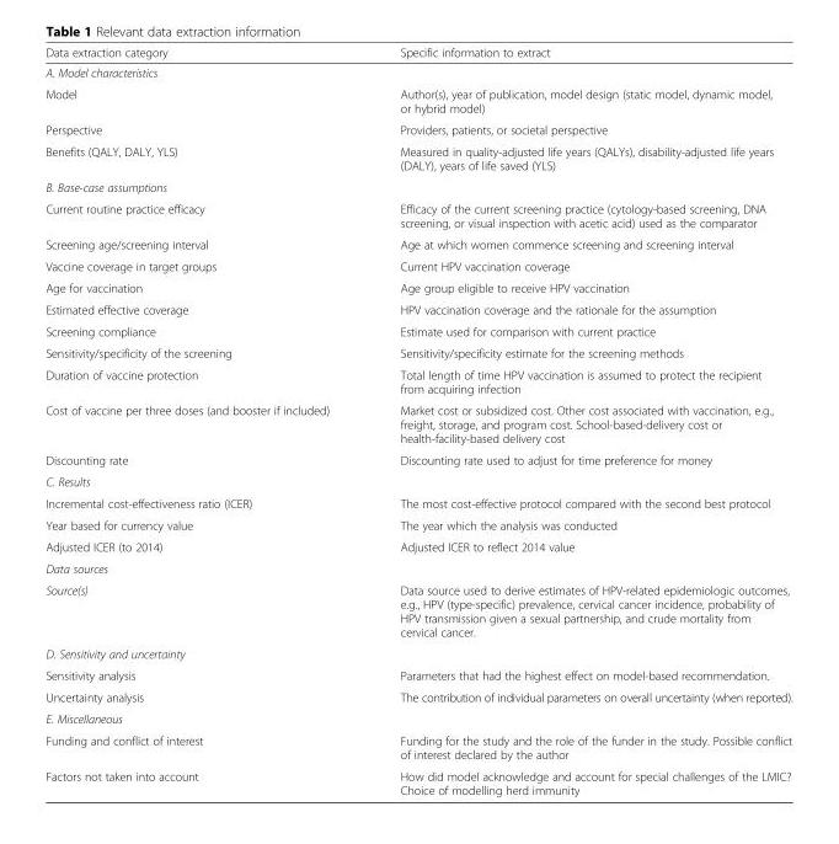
<table><thead><tr><td>Data extraction category</td><td>Specific information to extract</td></tr></thead><tbody><tr><td colspan="2">A. Model characteristics</td></tr><tr><td>Model</td><td>Author(s), year of publication, model design (static model, dynamic model, or hybrid model)</td></tr><tr><td>Perspective</td><td>Providers, patients, or societal perspective</td></tr><tr><td>Benefits (QALY, DALY, YLS)</td><td>Measured in quality-adjusted life years (QALYs), disability-adjusted life years (DALY), years of life saved (YLS)</td></tr><tr><td colspan="2">B. Base-case assumptions</td></tr><tr><td>Current routine practice efficacy</td><td>Efficacy of the current screening practice (cytology-based screening, DNA screening, or visual inspection with acetic acid) used as the comparator</td></tr><tr><td>Screening age/screening interval</td><td>Age at which women commence screening and screening interval</td></tr><tr><td>Vaccine coverage in target groups</td><td>Current HPV vaccination coverage</td></tr><tr><td>Age for vaccination</td><td>Age group eligible to receive HPV vaccination</td></tr><tr><td>Estimated effective coverage</td><td>HPV vaccination coverage and the rationale for the assumption</td></tr><tr><td>Screening compliance</td><td>Estimate used for comparison with current practice</td></tr><tr><td>Sensitivity/specificity of the screening</td><td>Sensitivity/specificity estimate for the screening methods</td></tr><tr><td>Duration of vaccine protection</td><td>Total length of time HPV vaccination is assumed to protect the recipient from acquiring infection</td></tr><tr><td>Cost of vaccine per three doses (and booster if included)</td><td>Market cost or subsidized cost. Other cost associated with vaccination, e.g., freight, storage, and program cost. School-based-delivery cost or health-facility-based delivery cost</td></tr><tr><td>Discounting rate</td><td>Discounting rate used to adjust for time preference for money</td></tr><tr><td colspan="2">C. Results</td></tr><tr><td>Incremental cost-effectiveness ratio (ICER)</td><td>The most cost-effective protocol compared with the second best protocol</td></tr><tr><td>Year based for currency value</td><td>The year which the analysis was conducted</td></tr><tr><td>Adjusted ICER (to 2014)</td><td>Adjusted ICER to reflect 2014 value</td></tr><tr><td colspan="2">Data sources</td></tr><tr><td>Source(s)</td><td>Data source used to derive estimates of HPV-related epidemiologic outcomes, e.g., HPV (type-specific) prevalence, cervical cancer incidence, probability of HPV transmission given a sexual partnership, and crude mortality from cervical cancer.</td></tr><tr><td colspan="2">D. Sensitivity and uncertainty</td></tr><tr><td>Sensitivity analysis</td><td>Parameters that had the highest effect on model-based recommendation.</td></tr><tr><td>Uncertainty analysis</td><td>The contribution of individual parameters on overall uncertainty (when reported).</td></tr><tr><td colspan="2">E. Miscellaneous</td></tr><tr><td>Funding and conflict of interest</td><td>Funding for the study and the role of the funder in the study. Possible conflict of interest declared by the author</td></tr><tr><td>Factors not taken into account</td><td>How did model acknowledge and account for special challenges of the LMIC? Choice of modelling herd immunity</td></tr></tbody></table>